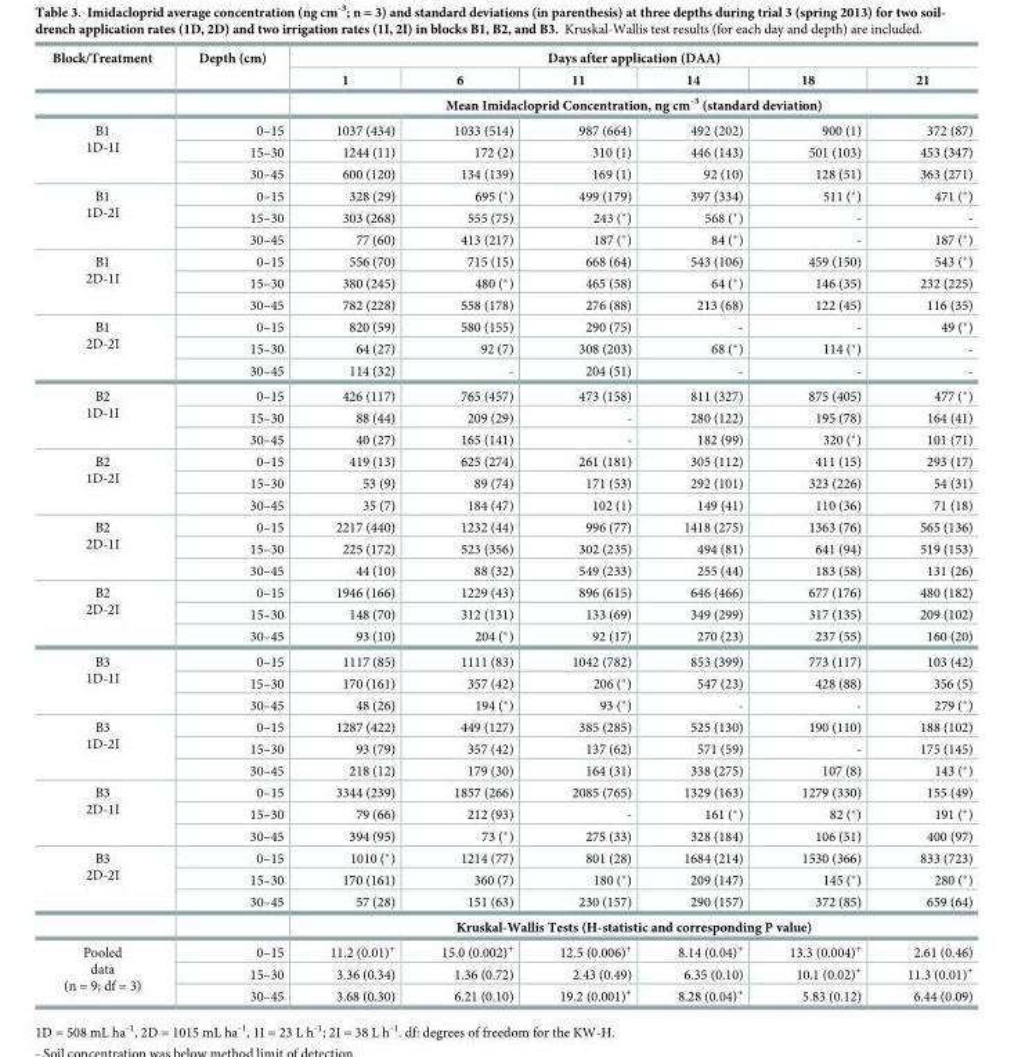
<table><thead><tr><td rowspan="2">Block/Treatment</td><td rowspan="2">Depth (cm)</td><td colspan="6">Days after application (DAA)</td></tr><tr><td>1</td><td>6</td><td>11</td><td>14</td><td>18</td><td>21</td></tr></thead><tbody><tr><td></td><td></td><td colspan="6">Mean Imidacloprid Concentration, ng cm<sup>-3</sup> (standard deviation)</td></tr><tr><td rowspan="3">B1 1D-1I</td><td>0–15</td><td>1037 (434)</td><td>1033 (514)</td><td>987 (664)</td><td>492 (202)</td><td>900 (1)</td><td>372 (87)</td></tr><tr><td>15–30</td><td>1244 (11)</td><td>172 (2)</td><td>310 (1)</td><td>446 (143)</td><td>501 (103)</td><td>453 (347)</td></tr><tr><td>30–45</td><td>600 (120)</td><td>134 (139)</td><td>169 (1)</td><td>92 (10)</td><td>128 (51)</td><td>363 (271)</td></tr><tr><td rowspan="3">B1 1D-2I</td><td>0–15</td><td>328 (29)</td><td>695 (*)</td><td>499 (179)</td><td>397 (334)</td><td>511 (*)</td><td>471 (*)</td></tr><tr><td>15–30</td><td>303 (268)</td><td>555 (75)</td><td>243 (*)</td><td>568 (*)</td><td>-</td><td>-</td></tr><tr><td>30–45</td><td>77 (60)</td><td>413 (217)</td><td>187 (*)</td><td>84 (*)</td><td>-</td><td>187 (*)</td></tr><tr><td rowspan="3">B1 2D-1I</td><td>0–15</td><td>556 (70)</td><td>715 (15)</td><td>668 (64)</td><td>543 (106)</td><td>459 (150)</td><td>543 (*)</td></tr><tr><td>15–30</td><td>380 (245)</td><td>480 (*)</td><td>465 (58)</td><td>64 (*)</td><td>146 (35)</td><td>232 (225)</td></tr><tr><td>30–45</td><td>782 (228)</td><td>558 (178)</td><td>276 (88)</td><td>213 (68)</td><td>122 (45)</td><td>116 (35)</td></tr><tr><td rowspan="3">B1 2D-2I</td><td>0–15</td><td>820 (59)</td><td>580 (155)</td><td>290 (75)</td><td>-</td><td>-</td><td>49 (*)</td></tr><tr><td>15–30</td><td>64 (27)</td><td>92 (7)</td><td>308 (203)</td><td>68 (*)</td><td>114 (*)</td><td>-</td></tr><tr><td>30–45</td><td>114 (32)</td><td>-</td><td>204 (51)</td><td>-</td><td>-</td><td>-</td></tr><tr><td rowspan="3">B2 1D-1I</td><td>0–15</td><td>426 (117)</td><td>765 (457)</td><td>473 (158)</td><td>811 (327)</td><td>875 (405)</td><td>477 (*)</td></tr><tr><td>15–30</td><td>88 (44)</td><td>209 (29)</td><td>-</td><td>280 (122)</td><td>195 (78)</td><td>164 (41)</td></tr><tr><td>30–45</td><td>40 (27)</td><td>165 (141)</td><td>-</td><td>182 (99)</td><td>320 (*)</td><td>101 (71)</td></tr><tr><td rowspan="3">B2 1D-2I</td><td>0–15</td><td>419 (13)</td><td>625 (274)</td><td>261 (181)</td><td>305 (112)</td><td>411 (15)</td><td>293 (17)</td></tr><tr><td>15–30</td><td>53 (9)</td><td>89 (74)</td><td>171 (53)</td><td>292 (101)</td><td>323 (226)</td><td>54 (31)</td></tr><tr><td>30–45</td><td>35 (7)</td><td>184 (47)</td><td>102 (1)</td><td>149 (41)</td><td>110 (36)</td><td>71 (18)</td></tr><tr><td rowspan="3">B2 2D-1I</td><td>0–15</td><td>2217 (440)</td><td>1232 (44)</td><td>996 (77)</td><td>1418 (275)</td><td>1363 (76)</td><td>565 (136)</td></tr><tr><td>15–30</td><td>225 (172)</td><td>523 (356)</td><td>302 (235)</td><td>494 (81)</td><td>641 (94)</td><td>519 (153)</td></tr><tr><td>30–45</td><td>44 (10)</td><td>88 (32)</td><td>549 (233)</td><td>255 (44)</td><td>183 (58)</td><td>131 (26)</td></tr><tr><td rowspan="3">B2 2D-2I</td><td>0–15</td><td>1946 (166)</td><td>1229 (43)</td><td>896 (615)</td><td>646 (466)</td><td>677 (176)</td><td>480 (182)</td></tr><tr><td>15–30</td><td>148 (70)</td><td>312 (131)</td><td>133 (69)</td><td>349 (299)</td><td>317 (135)</td><td>209 (102)</td></tr><tr><td>30–45</td><td>93 (10)</td><td>204 (*)</td><td>92 (17)</td><td>270 (23)</td><td>237 (55)</td><td>160 (20)</td></tr><tr><td rowspan="3">B3 1D-1I</td><td>0–15</td><td>1117 (85)</td><td>1111 (83)</td><td>1042 (782)</td><td>853 (399)</td><td>773 (117)</td><td>103 (42)</td></tr><tr><td>15–30</td><td>170 (161)</td><td>357 (42)</td><td>206 (*)</td><td>547 (23)</td><td>428 (88)</td><td>356 (5)</td></tr><tr><td>30–45</td><td>48 (26)</td><td>194 (*)</td><td>93 (*)</td><td>-</td><td>-</td><td>279 (*)</td></tr><tr><td rowspan="3">B3 1D-2I</td><td>0–15</td><td>1287 (422)</td><td>449 (127)</td><td>385 (285)</td><td>525 (130)</td><td>190 (110)</td><td>188 (102)</td></tr><tr><td>15–30</td><td>93 (79)</td><td>357 (42)</td><td>137 (62)</td><td>571 (59)</td><td>-</td><td>175 (145)</td></tr><tr><td>30–45</td><td>218 (12)</td><td>179 (30)</td><td>164 (31)</td><td>338 (275)</td><td>107 (8)</td><td>143 (*)</td></tr><tr><td rowspan="3">B3 2D-1I</td><td>0–15</td><td>3344 (239)</td><td>1857 (266)</td><td>2085 (765)</td><td>1329 (163)</td><td>1279 (330)</td><td>155 (49)</td></tr><tr><td>15–30</td><td>79 (66)</td><td>212 (93)</td><td>-</td><td>161 (*)</td><td>82 (*)</td><td>191 (*)</td></tr><tr><td>30–45</td><td>394 (95)</td><td>73 (*)</td><td>275 (33)</td><td>328 (184)</td><td>106 (51)</td><td>400 (97)</td></tr><tr><td rowspan="4">B3 2D-2I</td><td>0–15</td><td>1010 (*)</td><td>1214 (77)</td><td>801 (28)</td><td>1684 (214)</td><td>1530 (366)</td><td>833 (723)</td></tr><tr><td>15–30</td><td>170 (161)</td><td>360 (7)</td><td>180 (*)</td><td>209 (147)</td><td>145 (*)</td><td>280 (*)</td></tr><tr><td>30–45</td><td>57 (28)</td><td>151 (63)</td><td>230 (157)</td><td>290 (157)</td><td>372 (85)</td><td>659 (64)</td></tr><tr><td></td><td colspan="6">Kruskal-Wallis Tests (H-statistic and corresponding P value)</td></tr><tr><td rowspan="3">Pooled data (n = 9; df = 3)</td><td>0–15</td><td>11.2 (0.01)<sup>+</sup></td><td>15.0 (0.002)<sup>+</sup></td><td>12.5 (0.006)<sup>+</sup></td><td>8.14 (0.04)<sup>+</sup></td><td>13.3 (0.004)<sup>+</sup></td><td>2.61 (0.46)</td></tr><tr><td>15–30</td><td>3.36 (0.34)</td><td>1.36 (0.72)</td><td>2.43 (0.49)</td><td>6.35 (0.10)</td><td>10.1 (0.02)<sup>+</sup></td><td>11.3 (0.01)<sup>+</sup></td></tr><tr><td>30–45</td><td>3.68 (0.30)</td><td>6.21 (0.10)</td><td>19.2 (0.001)<sup>+</sup></td><td>8.28 (0.04)<sup>+</sup></td><td>5.83 (0.12)</td><td>6.44 (0.09)</td></tr></tbody></table>